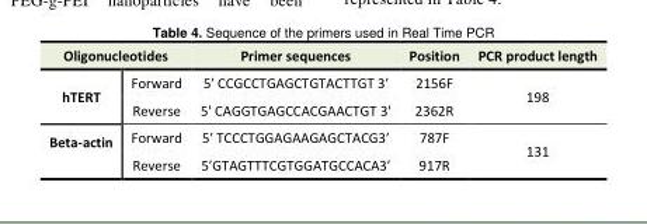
<table><tbody><tr><td colspan="2">Oligonucleotides</td><td>Primer sequences</td><td>Position</td><td>PCR product length</td></tr><tr><td rowspan="2">hTERT</td><td>Forward</td><td>5′ CCGCCTGAGCTGTACTTGT 3′</td><td>2156F</td><td rowspan="2">198</td></tr><tr><td>Reverse</td><td>5&#x27; CAGGTGAGCCACGAACTGT 3&#x27;</td><td>2362R</td></tr><tr><td rowspan="2">Beta-actin</td><td>Forward</td><td>5′ TCCCTGGAGAAGAGCTACG3′</td><td>787F</td><td rowspan="2">131</td></tr><tr><td>Reverse</td><td>5′GTAGTTTCGTGGATGCCACA3′</td><td>917R</td></tr></tbody></table>